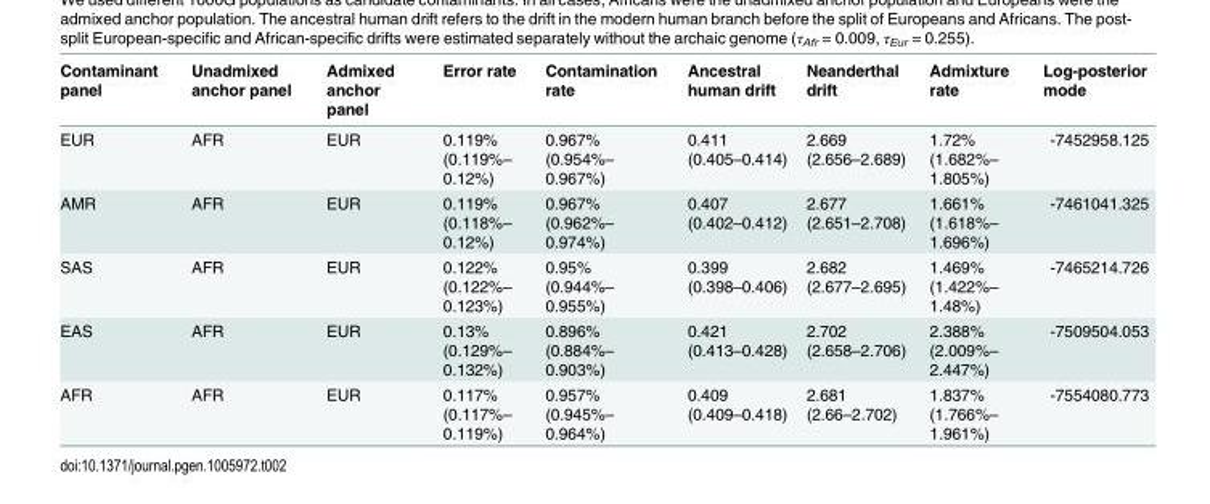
<table><thead><tr><td>Contaminant panel</td><td>Unadmixed anchor panel</td><td>Admixed anchor panel</td><td>Error rate</td><td>Contamination rate</td><td>Ancestral human drift</td><td>Neanderthal drift</td><td>Admixture rate</td><td>Log-posterior mode</td></tr></thead><tbody><tr><td>EUR</td><td>AFR</td><td>EUR</td><td>0.119% (0.119%– 0.12%)</td><td>0.967% (0.954%– 0.967%)</td><td>0.411 (0.405–0.414)</td><td>2.669 (2.656–2.689)</td><td>1.72% (1.682%– 1.805%)</td><td>-7452958.125</td></tr><tr><td>AMR</td><td>AFR</td><td>EUR</td><td>0.119% (0.118%– 0.12%)</td><td>0.967% (0.962%– 0.974%)</td><td>0.407 (0.402–0.412)</td><td>2.677 (2.651–2.708)</td><td>1.661% (1.618%– 1.696%)</td><td>-7461041.325</td></tr><tr><td>SAS</td><td>AFR</td><td>EUR</td><td>0.122% (0.122%– 0.123%)</td><td>0.95% (0.944%– 0.955%)</td><td>0.399 (0.398–0.406)</td><td>2.682 (2.677–2.695)</td><td>1.469% (1.422%– 1.48%)</td><td>-7465214.726</td></tr><tr><td>EAS</td><td>AFR</td><td>EUR</td><td>0.13% (0.129%– 0.132%)</td><td>0.896% (0.884%– 0.903%)</td><td>0.421 (0.413–0.428)</td><td>2.702 (2.658–2.706)</td><td>2.388% (2.009%– 2.447%)</td><td>-7509504.053</td></tr><tr><td>AFR</td><td>AFR</td><td>EUR</td><td>0.117% (0.117%– 0.119%)</td><td>0.957% (0.945%– 0.964%)</td><td>0.409 (0.409–0.418)</td><td>2.681 (2.66–2.702)</td><td>1.837% (1.766%– 1.961%)</td><td>-7554080.773</td></tr></tbody></table>